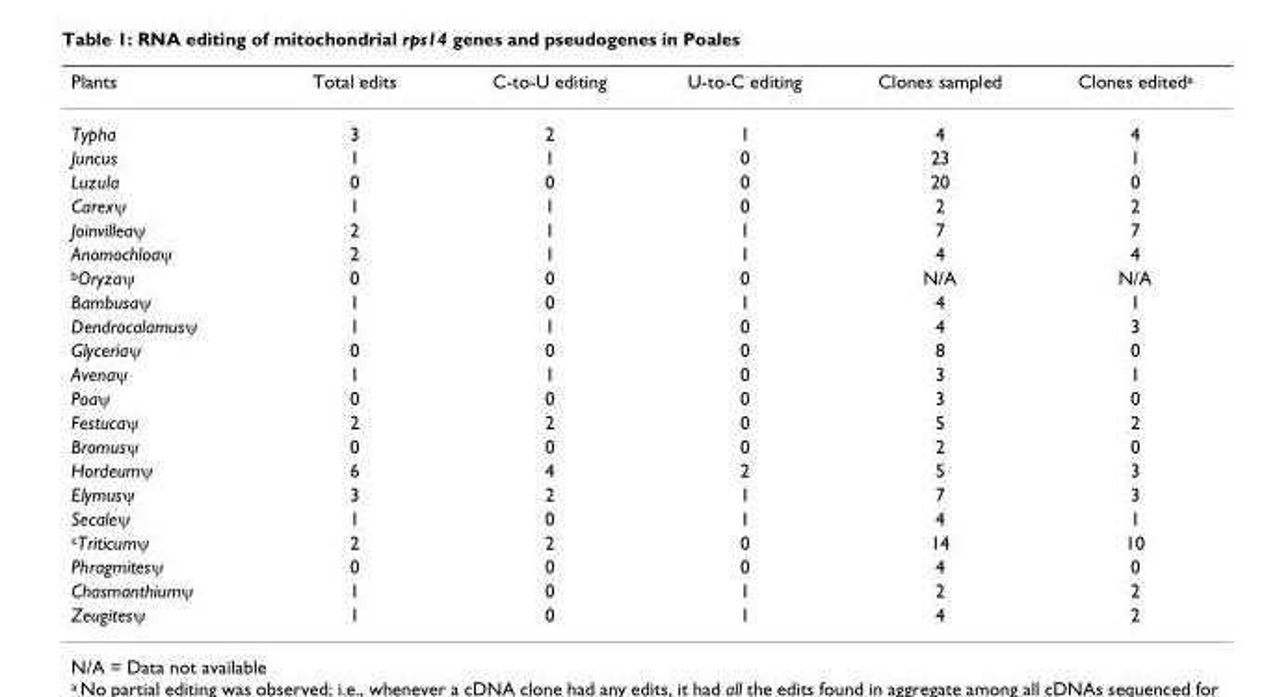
<table><thead><tr><td>Plants</td><td>Total edits</td><td>C-to-U editing</td><td>U-to-C editing</td><td>Clones sampled</td><td>Clones edited<sup>a</sup></td></tr></thead><tbody><tr><td>Typha</td><td>3</td><td>2</td><td>1</td><td>4</td><td>4</td></tr><tr><td>Juncus</td><td>1</td><td>1</td><td>0</td><td>23</td><td>1</td></tr><tr><td>Luzula</td><td>0</td><td>0</td><td>0</td><td>20</td><td>0</td></tr><tr><td>Carexψ</td><td>1</td><td>1</td><td>0</td><td>2</td><td>2</td></tr><tr><td>Joinvilleaψ</td><td>2</td><td>1</td><td>1</td><td>7</td><td>7</td></tr><tr><td>Anomochloaψ</td><td>2</td><td>1</td><td>1</td><td>4</td><td>4</td></tr><tr><td><sup>b</sup>Oryzaψ</td><td>0</td><td>0</td><td>0</td><td>N/A</td><td>N/A</td></tr><tr><td>Bambusaψ</td><td>1</td><td>0</td><td>1</td><td>4</td><td>1</td></tr><tr><td>Dendrocalamusψ</td><td>1</td><td>1</td><td>0</td><td>4</td><td>3</td></tr><tr><td>Glyceriaψ</td><td>0</td><td>0</td><td>0</td><td>8</td><td>0</td></tr><tr><td>Avenaψ</td><td>1</td><td>1</td><td>0</td><td>3</td><td>1</td></tr><tr><td>Poaψ</td><td>0</td><td>0</td><td>0</td><td>3</td><td>0</td></tr><tr><td>Festucaψ</td><td>2</td><td>2</td><td>0</td><td>5</td><td>2</td></tr><tr><td>Bromusψ</td><td>0</td><td>0</td><td>0</td><td>2</td><td>0</td></tr><tr><td>Hordeumψ</td><td>6</td><td>4</td><td>2</td><td>5</td><td>3</td></tr><tr><td>Elymusψ</td><td>3</td><td>2</td><td>1</td><td>7</td><td>3</td></tr><tr><td>Secaleψ</td><td>1</td><td>0</td><td>1</td><td>4</td><td>1</td></tr><tr><td><sup>c</sup>Triticumψ</td><td>2</td><td>2</td><td>0</td><td>14</td><td>10</td></tr><tr><td>Phragmitesψ</td><td>0</td><td>0</td><td>0</td><td>4</td><td>0</td></tr><tr><td>Chasmanthiumψ</td><td>1</td><td>0</td><td>1</td><td>2</td><td>2</td></tr><tr><td>Zeugitesψ</td><td>1</td><td>0</td><td>1</td><td>4</td><td>2</td></tr></tbody></table>